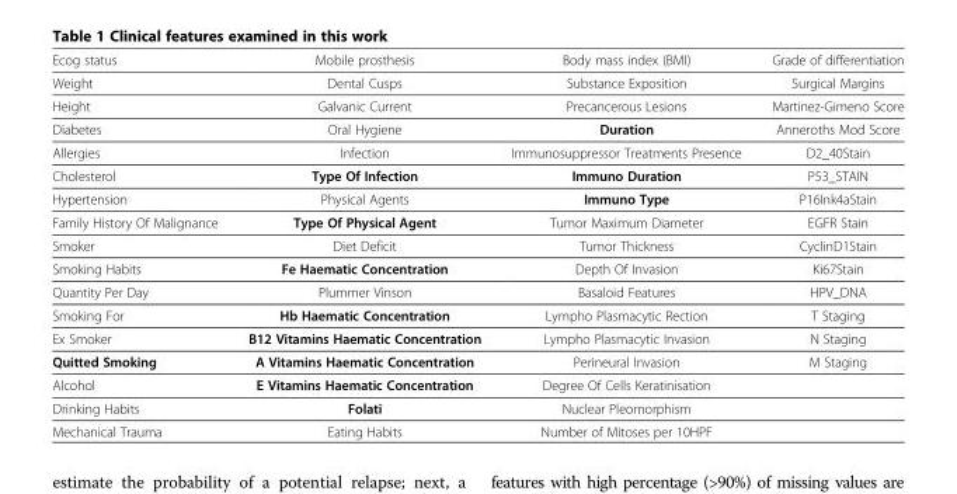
<table><thead><tr><td>Ecog status</td><td>Mobile prosthesis</td><td>Body mass index (BMI)</td><td>Grade of differentiation</td></tr></thead><tbody><tr><td>Weight</td><td>Dental Cusps</td><td>Substance Exposition</td><td>Surgical Margins</td></tr><tr><td>Height</td><td>Galvanic Current</td><td>Precancerous Lesions</td><td>Martinez-Gimeno Score</td></tr><tr><td>Diabetes</td><td>Oral Hygiene</td><td>Duration</td><td>Anneroths Mod Score</td></tr><tr><td>Allergies</td><td>Infection</td><td>Immunosuppressor Treatments Presence</td><td>D2_40Stain</td></tr><tr><td>Cholesterol</td><td>Type Of Infection</td><td>Immuno Duration</td><td>P53_STAIN</td></tr><tr><td>Hypertension</td><td>Physical Agents</td><td>Immuno Type</td><td>P16Ink4aStain</td></tr><tr><td>Family History Of Malignance</td><td>Type Of Physical Agent</td><td>Tumor Maximum Diameter</td><td>EGFR Stain</td></tr><tr><td>Smoker</td><td>Diet Deficit</td><td>Tumor Thickness</td><td>CyclinD1Stain</td></tr><tr><td>Smoking Habits</td><td>Fe Haematic Concentration</td><td>Depth Of Invasion</td><td>Ki67Stain</td></tr><tr><td>Quantity Per Day</td><td>Plummer Vinson</td><td>Basaloid Features</td><td>HPV_DNA</td></tr><tr><td>Smoking For</td><td>Hb Haematic Concentration</td><td>Lympho Plasmacytic Rection</td><td>T Staging</td></tr><tr><td>Ex Smoker</td><td>B12 Vitamins Haematic Concentration</td><td>Lympho Plasmacytic Invasion</td><td>N Staging</td></tr><tr><td>Quitted Smoking</td><td>A Vitamins Haematic Concentration</td><td>Perineural Invasion</td><td>M Staging</td></tr><tr><td>Alcohol</td><td>E Vitamins Haematic Concentration</td><td>Degree Of Cells Keratinisation</td><td></td></tr><tr><td>Drinking Habits</td><td>Folati</td><td>Nuclear Pleomorphism</td><td></td></tr><tr><td>Mechanical Trauma</td><td>Eating Habits</td><td>Number of Mitoses per 10HPF</td><td></td></tr></tbody></table>